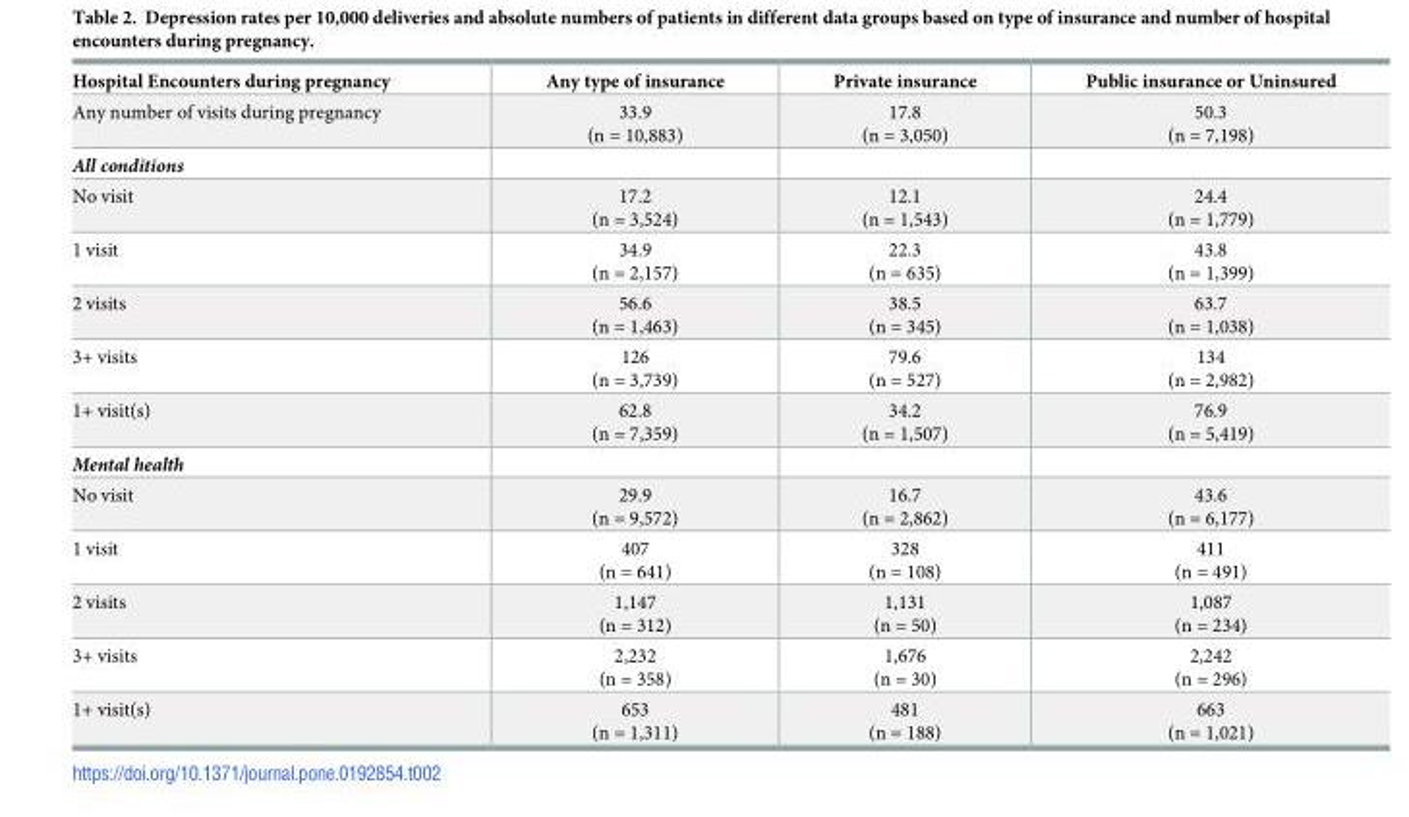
<table><thead><tr><td>Hospital Encounters during pregnancy</td><td>Any type of insurance</td><td>Private insurance</td><td>Public insurance or Uninsured</td></tr></thead><tbody><tr><td>Any number of visits during pregnancy</td><td>33.9 (n = 10,883)</td><td>17.8 (n = 3,050)</td><td>50.3 (n = 7,198)</td></tr><tr><td colspan="4">All conditions</td></tr><tr><td>No visit</td><td>17.2 (n = 3,524)</td><td>12.1 (n = 1,543)</td><td>24.4 (n = 1,779)</td></tr><tr><td>1 visit</td><td>34.9 (n = 2,157)</td><td>22.3 (n = 635)</td><td>43.8 (n = 1,399)</td></tr><tr><td>2 visits</td><td>56.6 (n = 1,463)</td><td>38.5 (n = 345)</td><td>63.7 (n = 1,038)</td></tr><tr><td>3+ visits</td><td>126 (n = 3,739)</td><td>79.6 (n = 527)</td><td>134 (n = 2,982)</td></tr><tr><td>1+ visit(s)</td><td>62.8 (n = 7,359)</td><td>34.2 (n = 1,507)</td><td>76.9 (n = 5,419)</td></tr><tr><td colspan="4">Mental health</td></tr><tr><td>No visit</td><td>29.9 (n = 9,572)</td><td>16.7 (n = 2,862)</td><td>43.6 (n = 6,177)</td></tr><tr><td>1 visit</td><td>407 (n = 641)</td><td>328 (n = 108)</td><td>411 (n = 491)</td></tr><tr><td>2 visits</td><td>1,147 (n = 312)</td><td>1,131 (n = 50)</td><td>1,087 (n = 234)</td></tr><tr><td>3+ visits</td><td>2,232 (n = 358)</td><td>1,676 (n = 30)</td><td>2,242 (n = 296)</td></tr><tr><td>1+ visit(s)</td><td>653 (n = 1,311)</td><td>481 (n = 188)</td><td>663 (n = 1,021)</td></tr></tbody></table>